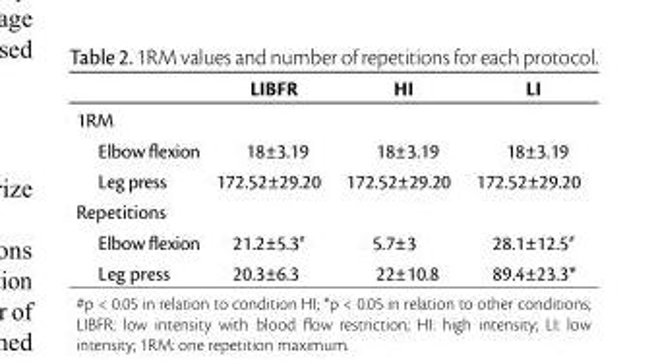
<table><thead><tr><td></td><td>LIBFR</td><td>HI</td><td>LI</td></tr></thead><tbody><tr><td colspan="4">1RM</td></tr><tr><td>Elbow flexion</td><td>18±3.19</td><td>18±3.19</td><td>18±3.19</td></tr><tr><td>Leg press</td><td>172.52±29.20</td><td>172.52±29.20</td><td>172.52±29.20</td></tr><tr><td colspan="4">Repetitions</td></tr><tr><td>Elbow flexion</td><td>21.2±5.3<sup>#</sup></td><td>5.7±3</td><td>28.1±12.5<sup>#</sup></td></tr><tr><td>Leg press</td><td>20.3±6.3</td><td>22±10.8</td><td>89.4±23.3*</td></tr></tbody></table>